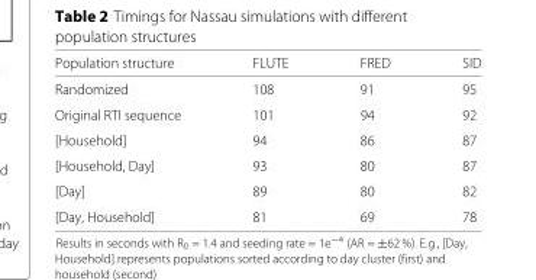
<table><thead><tr><td>Population structure</td><td>FLUTE</td><td>FRED</td><td>SID</td></tr></thead><tbody><tr><td>Randomized</td><td>108</td><td>91</td><td>95</td></tr><tr><td>Original RTI sequence</td><td>101</td><td>94</td><td>92</td></tr><tr><td>[Household]</td><td>94</td><td>86</td><td>87</td></tr><tr><td>[Household, Day]</td><td>93</td><td>80</td><td>87</td></tr><tr><td>[Day]</td><td>89</td><td>80</td><td>82</td></tr><tr><td>[Day, Household]</td><td>81</td><td>69</td><td>78</td></tr></tbody></table>